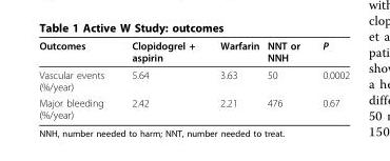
<table><thead><tr><td>Outcomes</td><td>Clopidogrel + aspirin</td><td>Warfarin</td><td>NNT or NNH</td><td>P</td></tr></thead><tbody><tr><td>Vascular events (%/year)</td><td>5.64</td><td>3.63</td><td>50</td><td>0.0002</td></tr><tr><td>Major bleeding (%/year)</td><td>2.42</td><td>2.21</td><td>476</td><td>0.67</td></tr></tbody></table>